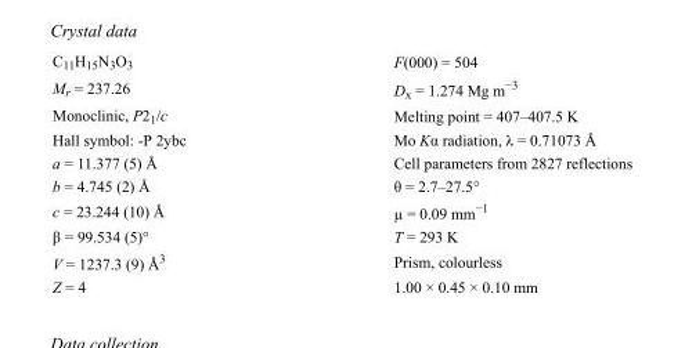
<table><tbody><tr><td>C<sub>11</sub>H<sub>15</sub>N<sub>3</sub>O<sub>3</sub></td><td>F(000) = 504</td></tr><tr><td>M<sub>r</sub> = 237.26</td><td>D<sub>x</sub> = 1.274 Mg m<sup>−3</sup></td></tr><tr><td>Monoclinic, P2<sub>1</sub>/c</td><td>Melting point = 407–407.5 K</td></tr><tr><td>Hall symbol: -P 2ybc</td><td>Mo Kα radiation, λ = 0.71073 Å</td></tr><tr><td>a = 11.377 (5) Å</td><td>Cell parameters from 2827 reflections</td></tr><tr><td>b = 4.745 (2) Å</td><td>θ = 2.7–27.5°</td></tr><tr><td>c = 23.244 (10) Å</td><td>µ = 0.09 mm<sup>−1</sup></td></tr><tr><td>β = 99.534 (5)°</td><td>T = 293 K</td></tr><tr><td>V = 1237.3 (9) Å<sup>3</sup></td><td>Prism, colourless</td></tr><tr><td>Z = 4</td><td>1.00 × 0.45 × 0.10 mm</td></tr></tbody></table>